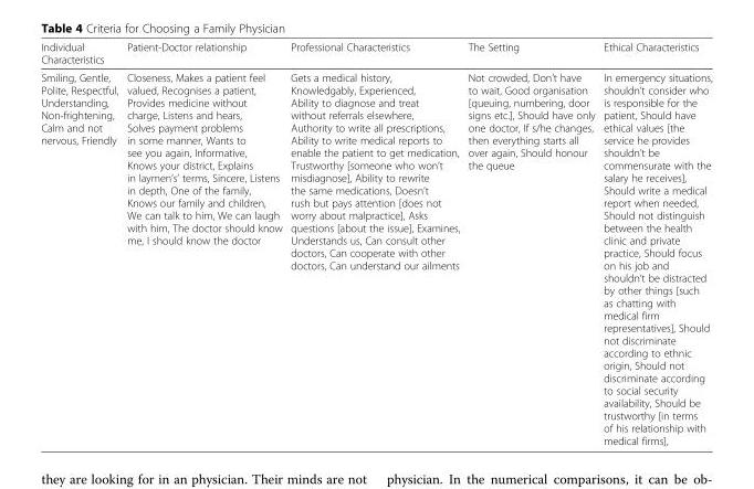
<table><thead><tr><td>Individual Characteristics</td><td>Patient-Doctor relationship</td><td>Professional Characteristics</td><td>The Setting</td><td>Ethical Characteristics</td></tr></thead><tbody><tr><td>Smiling, Gentle, Polite, Respectful, Understanding, Non-frightening, Calm and not nervous, Friendly</td><td>Closeness, Makes a patient feel valued, Recognises a patient, Provides medicine without charge, Listens and hears, Solves payment problems in some manner, Wants to see you again, Informative, Knows your district, Explains in laymen’s’ terms, Sincere, Listens in depth, One of the family, Knows our family and children, We can talk to him, We can laugh with him, The doctor should know me, I should know the doctor</td><td>Gets a medical history, Knowledgably, Experienced, Ability to diagnose and treat without referrals elsewhere, Authority to write all prescriptions, Ability to write medical reports to enable the patient to get medication, Trustworthy [someone who won’t misdiagnose], Ability to rewrite the same medications, Doesn’t rush but pays attention [does not worry about malpractice], Asks questions [about the issue], Examines, Understands us, Can consult other doctors, Can cooperate with other doctors, Can understand our ailments</td><td>Not crowded, Don’t have to wait, Good organisation [queuing, numbering, door signs etc.], Should have only one doctor, If s/he changes, then everything starts all over again, Should honour the queue</td><td>In emergency situations, shouldn’t consider who is responsible for the patient, Should have ethical values [the service he provides shouldn’t be commensurate with the salary he receives], Should write a medical report when needed, Should not distinguish between the health clinic and private practice, Should focus on his job and shouldn’t be distracted by other things [such as chatting with medical firm representatives], Should not discriminate according to ethnic origin, Should not discriminate according to social security availability, Should be trustworthy [in terms of his relationship with medical firms],</td></tr></tbody></table>